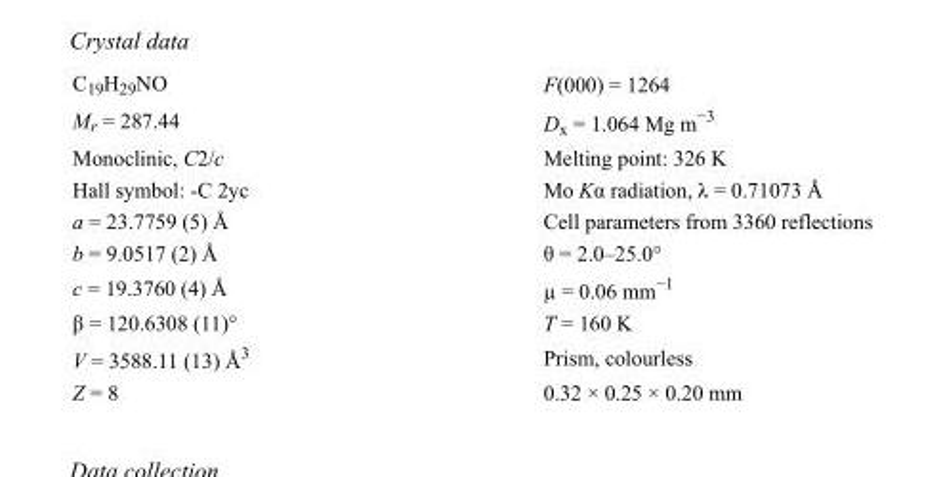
<table><tbody><tr><td>C<sub>19</sub>H<sub>29</sub>NO</td><td>F(000) = 1264</td></tr><tr><td>M<sub>r</sub> = 287.44</td><td>D<sub>x</sub> = 1.064 Mg m<sup>−3</sup></td></tr><tr><td>Monoclinic, C2/c</td><td>Melting point: 326 K</td></tr><tr><td>Hall symbol: -C 2yc</td><td>Mo Kα radiation, λ = 0.71073 Å</td></tr><tr><td>a = 23.7759 (5) Å</td><td>Cell parameters from 3360 reflections</td></tr><tr><td>b = 9.0517 (2) Å</td><td>θ = 2.0–25.0°</td></tr><tr><td>c = 19.3760 (4) Å</td><td>µ = 0.06 mm<sup>−1</sup></td></tr><tr><td>β = 120.6308 (11)°</td><td>T = 160 K</td></tr><tr><td>V = 3588.11 (13) Å<sup>3</sup></td><td>Prism, colourless</td></tr><tr><td>Z = 8</td><td>0.32 × 0.25 × 0.20 mm</td></tr></tbody></table>